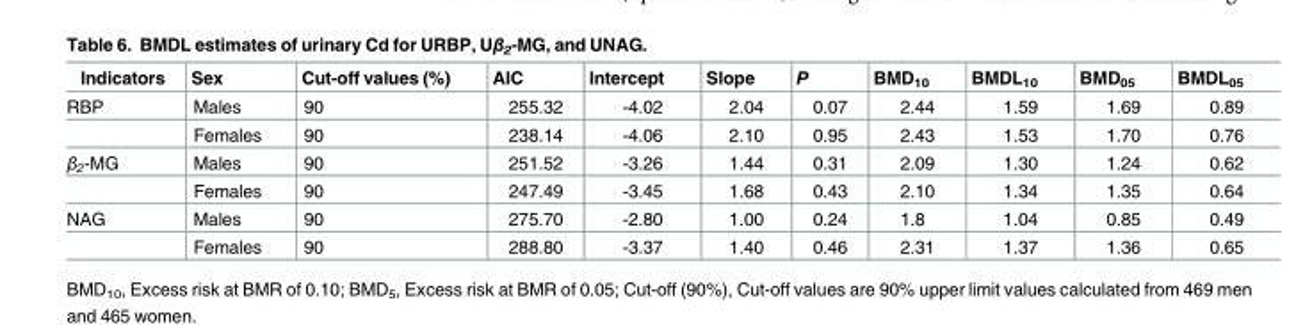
<table><thead><tr><td>Indicators</td><td>Sex</td><td>Cut-off values (%)</td><td>AIC</td><td>Intercept</td><td>Slope</td><td>P</td><td>BMD<sub>10</sub></td><td>BMDL<sub>10</sub></td><td>BMD<sub>05</sub></td><td>BMDL<sub>05</sub></td></tr></thead><tbody><tr><td rowspan="2">RBP</td><td>Males</td><td>90</td><td>255.32</td><td>-4.02</td><td>2.04</td><td>0.07</td><td>2.44</td><td>1.59</td><td>1.69</td><td>0.89</td></tr><tr><td>Females</td><td>90</td><td>238.14</td><td>-4.06</td><td>2.10</td><td>0.95</td><td>2.43</td><td>1.53</td><td>1.70</td><td>0.76</td></tr><tr><td rowspan="2">β<sub>2</sub>-MG</td><td>Males</td><td>90</td><td>251.52</td><td>-3.26</td><td>1.44</td><td>0.31</td><td>2.09</td><td>1.30</td><td>1.24</td><td>0.62</td></tr><tr><td>Females</td><td>90</td><td>247.49</td><td>-3.45</td><td>1.68</td><td>0.43</td><td>2.10</td><td>1.34</td><td>1.35</td><td>0.64</td></tr><tr><td rowspan="2">NAG</td><td>Males</td><td>90</td><td>275.70</td><td>-2.80</td><td>1.00</td><td>0.24</td><td>1.8</td><td>1.04</td><td>0.85</td><td>0.49</td></tr><tr><td>Females</td><td>90</td><td>288.80</td><td>-3.37</td><td>1.40</td><td>0.46</td><td>2.31</td><td>1.37</td><td>1.36</td><td>0.65</td></tr></tbody></table>